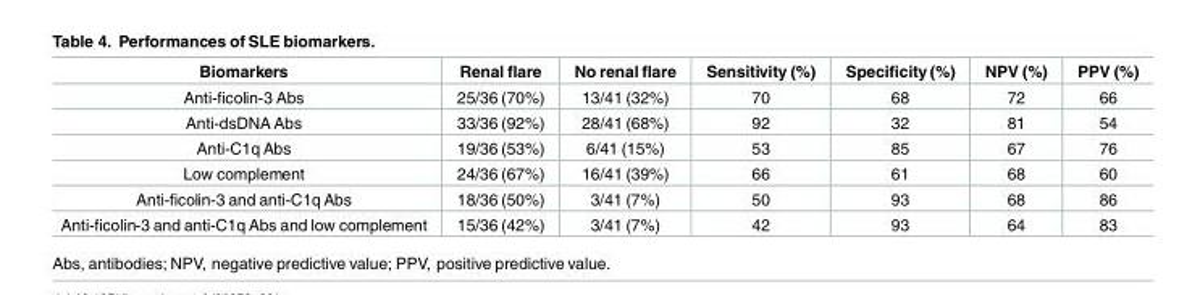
<table><thead><tr><td>Biomarkers</td><td>Renal flare</td><td>No renal flare</td><td>Sensitivity (%)</td><td>Specificity (%)</td><td>NPV (%)</td><td>PPV (%)</td></tr></thead><tbody><tr><td>Anti-ficolin-3 Abs</td><td>25/36 (70%)</td><td>13/41 (32%)</td><td>70</td><td>68</td><td>72</td><td>66</td></tr><tr><td>Anti-dsDNA Abs</td><td>33/36 (92%)</td><td>28/41 (68%)</td><td>92</td><td>32</td><td>81</td><td>54</td></tr><tr><td>Anti-C1q Abs</td><td>19/36 (53%)</td><td>6/41 (15%)</td><td>53</td><td>85</td><td>67</td><td>76</td></tr><tr><td>Low complement</td><td>24/36 (67%)</td><td>16/41 (39%)</td><td>66</td><td>61</td><td>68</td><td>60</td></tr><tr><td>Anti-ficolin-3 and anti-C1q Abs</td><td>18/36 (50%)</td><td>3/41 (7%)</td><td>50</td><td>93</td><td>68</td><td>86</td></tr><tr><td>Anti-ficolin-3 and anti-C1q Abs and low complement</td><td>15/36 (42%)</td><td>3/41 (7%)</td><td>42</td><td>93</td><td>64</td><td>83</td></tr></tbody></table>